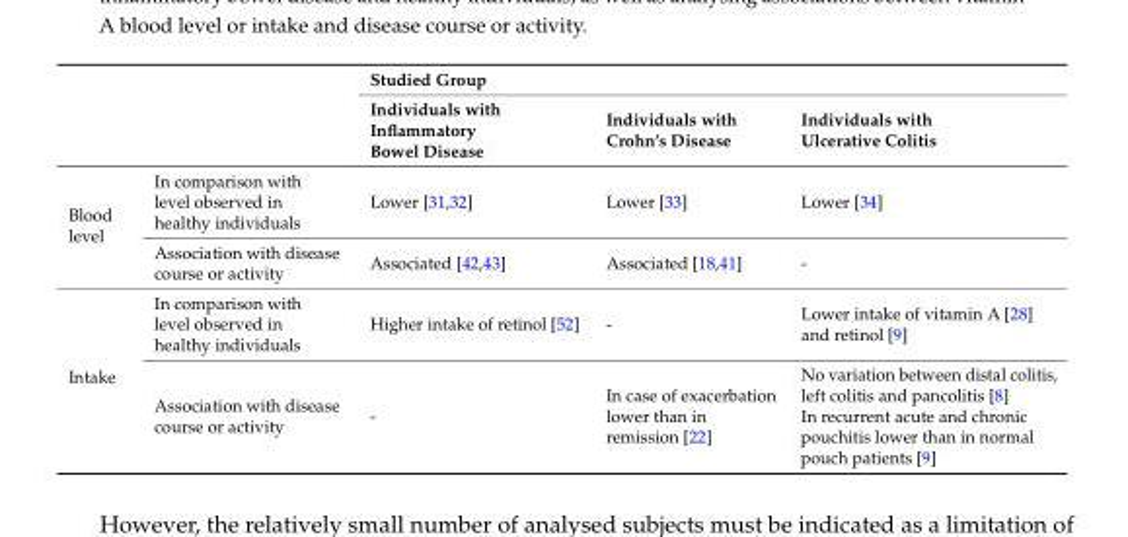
<table><thead><tr><td rowspan="2"></td><td rowspan="2"></td><td colspan="3">Studied Group</td></tr><tr><td>Individuals with Inflammatory Bowel Disease</td><td>Individuals with Crohn’s Disease</td><td>Individuals with Ulcerative Colitis</td></tr></thead><tbody><tr><td rowspan="2">Blood level</td><td>In comparison with level observed in healthy individuals</td><td>Lower [31,32]</td><td>Lower [33]</td><td>Lower [34]</td></tr><tr><td>Association with disease course or activity</td><td>Associated [42,43]</td><td>Associated [18,41]</td><td>-</td></tr><tr><td rowspan="2">Intake</td><td>In comparison with level observed in healthy individuals</td><td>Higher intake of retinol [52]</td><td>-</td><td>Lower intake of vitamin A [28] and retinol [9]</td></tr><tr><td>Association with disease course or activity</td><td>-</td><td>In case of exacerbation lower than in remission [22]</td><td>No variation between distal colitis, left colitis and pancolitis [8] In recurrent acute and chronic pouchitis lower than in normal pouch patients [9]</td></tr></tbody></table>